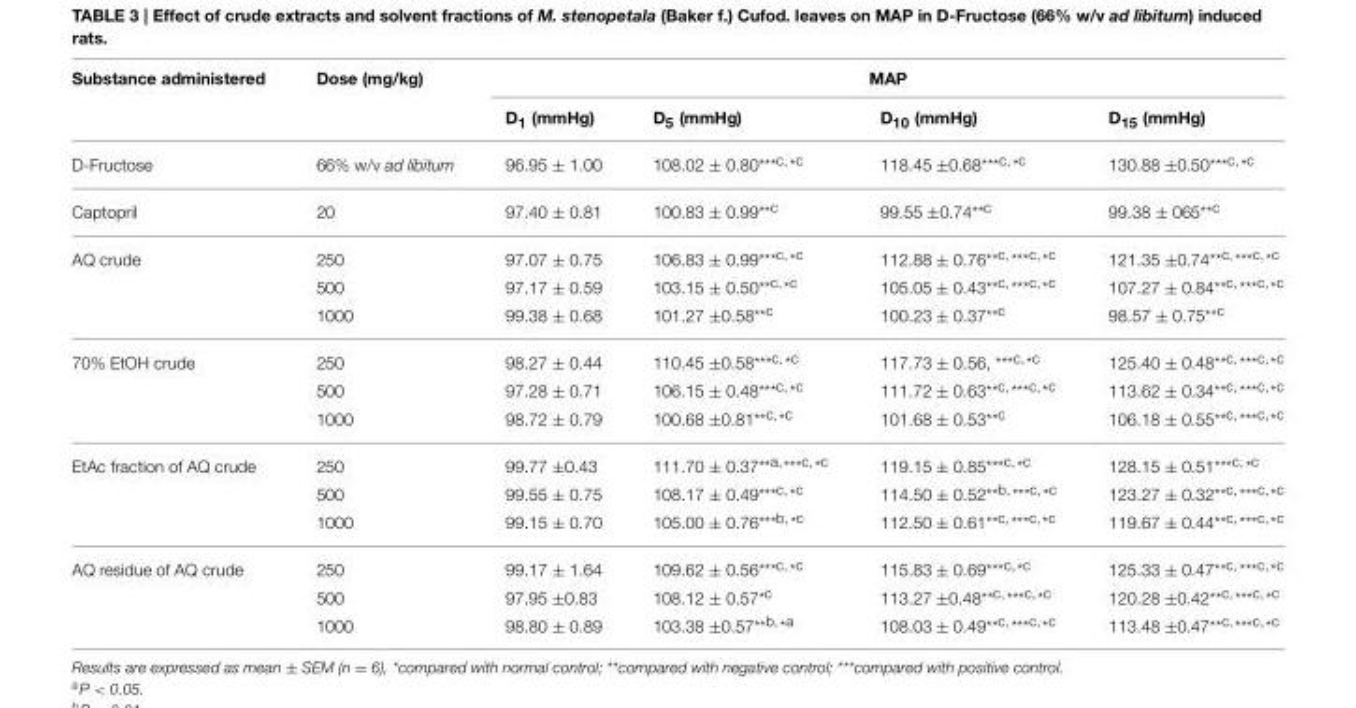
<table><thead><tr><td rowspan="2">Substance administered</td><td rowspan="2">Dose (mg/kg)</td><td colspan="4">MAP</td></tr><tr><td>D<sub>1</sub> (mmHg)</td><td>D<sub>5</sub> (mmHg)</td><td>D<sub>10</sub> (mmHg)</td><td>D<sub>15</sub> (mmHg)</td></tr></thead><tbody><tr><td>D-Fructose</td><td>66% w/v ad libitum</td><td>96.95 ± 1.00</td><td>108.02 ± 0.80<sup>***c,*c</sup></td><td>118.45 ±0.68<sup>***c,*c</sup></td><td>130.88 ±0.50<sup>***c,*c</sup></td></tr><tr><td>Captopril</td><td>20</td><td>97.40 ± 0.81</td><td>100.83 ± 0.99<sup>**c</sup></td><td>99.55 ±0.74<sup>**c</sup></td><td>99.38 ± 065<sup>**c</sup></td></tr><tr><td rowspan="3">AQ crude</td><td>250</td><td>97.07 ± 0.75</td><td>106.83 ± 0.99<sup>***c,*c</sup></td><td>112.88 ± 0.76<sup>**c,***c,*c</sup></td><td>121.35 ±0.74<sup>**c,***c,*c</sup></td></tr><tr><td>500</td><td>97.17 ± 0.59</td><td>103.15 ± 0.50<sup>**c,*c</sup></td><td>105.05 ± 0.43<sup>**c,***c,*c</sup></td><td>107.27 ± 0.84<sup>**c,***c,*c</sup></td></tr><tr><td>1000</td><td>99.38 ± 0.68</td><td>101.27 ±0.58<sup>**c</sup></td><td>100.23 ± 0.37<sup>**c</sup></td><td>98.57 ± 0.75<sup>**c</sup></td></tr><tr><td rowspan="3">70% EtOH crude</td><td>250</td><td>98.27 ± 0.44</td><td>110.45 ±0.58<sup>***c,*c</sup></td><td>117.73 ± 0.56, <sup>***c,*c</sup></td><td>125.40 ± 0.48<sup>**c,***c,*c</sup></td></tr><tr><td>500</td><td>97.28 ± 0.71</td><td>106.15 ± 0.48<sup>***c,*c</sup></td><td>111.72 ± 0.63<sup>**c,***c,*c</sup></td><td>113.62 ± 0.34<sup>**c,***c,*c</sup></td></tr><tr><td>1000</td><td>98.72 ± 0.79</td><td>100.68 ±0.81<sup>**c,*c</sup></td><td>101.68 ± 0.53<sup>**c</sup></td><td>106.18 ± 0.55<sup>**c,***c,*c</sup></td></tr><tr><td rowspan="3">EtAc fraction of AQ crude</td><td>250</td><td>99.77 ±0.43</td><td>111.70 ± 0.37<sup>**a,***c,*c</sup></td><td>119.15 ± 0.85<sup>***c,*c</sup></td><td>128.15 ± 0.51<sup>***c,*c</sup></td></tr><tr><td>500</td><td>99.55 ± 0.75</td><td>108.17 ± 0.49<sup>***c,*c</sup></td><td>114.50 ± 0.52<sup>**b,***c,*c</sup></td><td>123.27 ± 0.32<sup>**c,***c,*c</sup></td></tr><tr><td>1000</td><td>99.15 ± 0.70</td><td>105.00 ± 0.76<sup>***b,*c</sup></td><td>112.50 ± 0.61<sup>**c,***c,*c</sup></td><td>119.67 ± 0.44<sup>**c,***c,*c</sup></td></tr><tr><td rowspan="3">AQ residue of AQ crude</td><td>250</td><td>99.17 ± 1.64</td><td>109.62 ± 0.56<sup>***c,*c</sup></td><td>115.83 ± 0.69<sup>***c,*c</sup></td><td>125.33 ± 0.47**c,***c,*c</td></tr><tr><td>500</td><td>97.95 ±0.83</td><td>108.12 ± 0.57<sup>*c</sup></td><td>113.27 ±0.48<sup>**c,***c,*c</sup></td><td>120.28 ±0.42<sup>**c,***c,*c</sup></td></tr><tr><td>1000</td><td>98.80 ± 0.89</td><td>103.38 ±0.57<sup>**b,*a</sup></td><td>108.03 ± 0.49<sup>**c,***c,*c</sup></td><td>113.48 ±0.47<sup>**c,***c,*c</sup></td></tr></tbody></table>